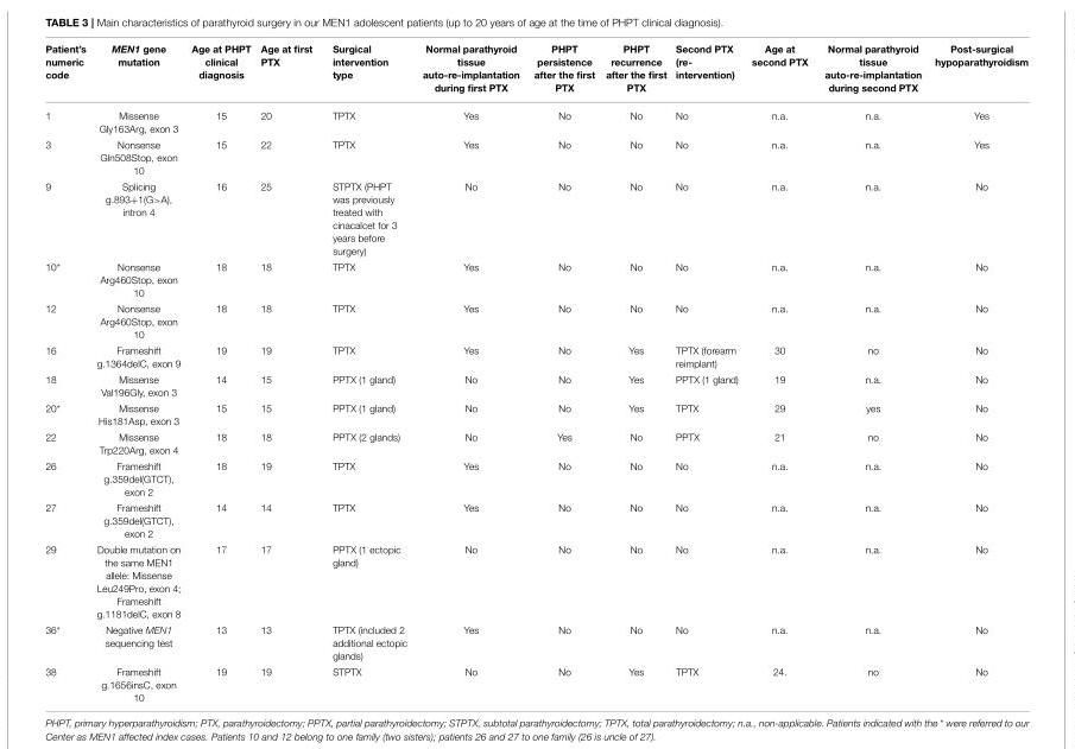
<table><thead><tr><td>Patient’s numeric code</td><td>MEN1 gene mutation</td><td>Age at PHPT clinical diagnosis</td><td>Age at first PTX</td><td>Surgical intervention type</td><td>Normal parathyroid tissue auto-re-implantation during first PTX</td><td>PHPT persistence after the first PTX</td><td>PHPT recurrence after the first PTX</td><td>Second PTX (re- intervention)</td><td>Age at second PTX</td><td>Normal parathyroid tissue auto-re-implantation during second PTX</td><td>Post-surgical hypoparathyroidism</td></tr></thead><tbody><tr><td>1</td><td>Missense Gly163Arg, exon 3</td><td>15</td><td>20</td><td>TPTX</td><td>Yes</td><td>No</td><td>No</td><td>No</td><td>n.a.</td><td>n.a.</td><td>Yes</td></tr><tr><td>3</td><td>Nonsense Gln508Stop, exon 10</td><td>15</td><td>22</td><td>TPTX</td><td>Yes</td><td>No</td><td>No</td><td>No</td><td>n.a.</td><td>n.a.</td><td>Yes</td></tr><tr><td>9</td><td>Splicing g.893+1(G&gt;A), intron 4</td><td>16</td><td>25</td><td>STPTX (PHPT was previously treated with cinacalcet for 3 years before surgery)</td><td>No</td><td>No</td><td>No</td><td>No</td><td>n.a.</td><td>n.a.</td><td>No</td></tr><tr><td>10*</td><td>Nonsense Arg460Stop, exon 10</td><td>18</td><td>18</td><td>TPTX</td><td>Yes</td><td>No</td><td>No</td><td>No</td><td>n.a.</td><td>n.a.</td><td>No</td></tr><tr><td>12</td><td>Nonsense Arg460Stop, exon 10</td><td>18</td><td>18</td><td>TPTX</td><td>Yes</td><td>No</td><td>No</td><td>No</td><td>n.a.</td><td>n.a.</td><td>No</td></tr><tr><td>16</td><td>Frameshift g.1364delC, exon 9</td><td>19</td><td>19</td><td>TPTX</td><td>Yes</td><td>No</td><td>Yes</td><td>TPTX (forearm reimplant)</td><td>30</td><td>no</td><td>No</td></tr><tr><td>18</td><td>Missense Val196Gly, exon 3</td><td>14</td><td>15</td><td>PPTX (1 gland)</td><td>No</td><td>No</td><td>Yes</td><td>PPTX (1 gland)</td><td>19</td><td>n.a.</td><td>No</td></tr><tr><td>20*</td><td>Missense His181Asp, exon 3</td><td>15</td><td>15</td><td>PPTX (1 gland)</td><td>No</td><td>No</td><td>Yes</td><td>TPTX</td><td>29</td><td>yes</td><td>No</td></tr><tr><td>22</td><td>Missense Trp220Arg, exon 4</td><td>18</td><td>18</td><td>PPTX (2 glands)</td><td>No</td><td>Yes</td><td>No</td><td>PPTX</td><td>21</td><td>no</td><td>No</td></tr><tr><td>26</td><td>Frameshift g.359del(GTCT), exon 2</td><td>18</td><td>19</td><td>TPTX</td><td>Yes</td><td>No</td><td>No</td><td>No</td><td>n.a.</td><td>n.a.</td><td>No</td></tr><tr><td>27</td><td>Frameshift g.359del(GTCT), exon 2</td><td>14</td><td>14</td><td>TPTX</td><td>Yes</td><td>No</td><td>No</td><td>No</td><td>n.a.</td><td>n.a.</td><td>No</td></tr><tr><td>29</td><td>Double mutation on the same MEN1 allele: Missense Leu249Pro, exon 4; Frameshift g.1181delC, exon 8</td><td>17</td><td>17</td><td>PPTX (1 ectopic gland)</td><td>No</td><td>No</td><td>No</td><td>No</td><td>n.a.</td><td>n.a.</td><td>No</td></tr><tr><td>36*</td><td>Negative MEN1 sequencing test</td><td>13</td><td>13</td><td>TPTX (included 2 additional ectopic glands)</td><td>Yes</td><td>No</td><td>No</td><td>No</td><td>n.a.</td><td>n.a.</td><td>No</td></tr><tr><td>38</td><td>Frameshift g.1656insC, exon 10</td><td>19</td><td>19</td><td>STPTX</td><td>No</td><td>No</td><td>Yes</td><td>TPTX</td><td>24.</td><td>no</td><td>No</td></tr></tbody></table>